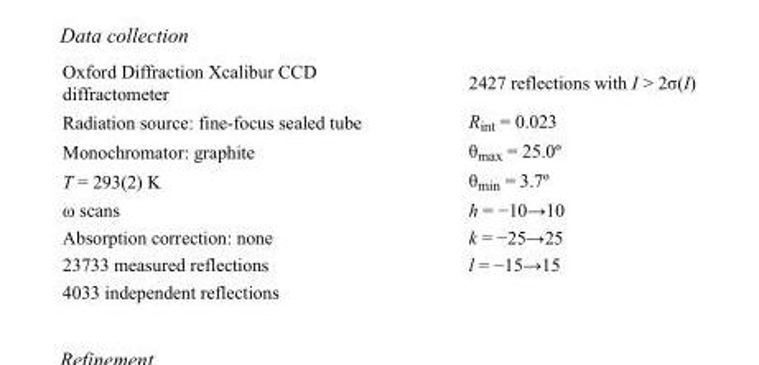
<table><tbody><tr><td>Oxford Diffraction Xcalibur CCD diffractometer</td><td>2427 reflections with I &gt; 2σ(I)</td></tr><tr><td>Radiation source: fine-focus sealed tube</td><td>R<sub>int</sub> = 0.023</td></tr><tr><td>Monochromator: graphite</td><td>θ<sub>max</sub> = 25.0º</td></tr><tr><td>T = 293(2) K</td><td>θ<sub>min</sub> = 3.7º</td></tr><tr><td>ω scans</td><td>h = −10→10</td></tr><tr><td>Absorption correction: none</td><td>k = −25→25</td></tr><tr><td>23733 measured reflections</td><td>l = −15→15</td></tr><tr><td>4033 independent reflections</td><td></td></tr></tbody></table>